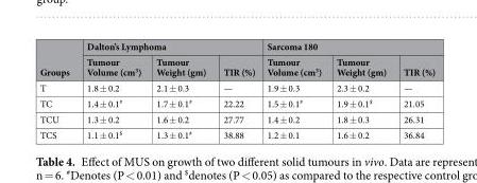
<table><thead><tr><td rowspan="2">Groups</td><td colspan="3">Dalton’s Lymphoma</td><td colspan="3">Sarcoma 180</td></tr><tr><td>Tumour Volume (cm<sup>3</sup>)</td><td>Tumour Weight (gm)</td><td>TIR (%)</td><td>Tumour Volume (cm<sup>3</sup>)</td><td>Tumour Weight (gm)</td><td>TIR (%)</td></tr></thead><tbody><tr><td>T</td><td>1.8 ± 0.2</td><td>2.1 ± 0.3</td><td>—</td><td>1.9 ± 0.3</td><td>2.3 ± 0.2</td><td>—</td></tr><tr><td>TC</td><td>1.4 ± 0.1<sup>#</sup></td><td>1.7 ± 0.1<sup>#</sup></td><td>22.22</td><td>1.5 ± 0.1<sup>#</sup></td><td>1.9 ± 0.1<sup>$</sup></td><td>21.05</td></tr><tr><td>TCU</td><td>1.3 ± 0.2</td><td>1.6 ± 0.2</td><td>27.77</td><td>1.4 ± 0.2</td><td>1.8 ± 0.3</td><td>26.31</td></tr><tr><td>TCS</td><td>1.1 ± 0.1<sup>$</sup></td><td>1.3 ± 0.1<sup>#</sup></td><td>38.88</td><td>1.2 ± 0.1</td><td>1.6 ± 0.2</td><td>36.84</td></tr></tbody></table>